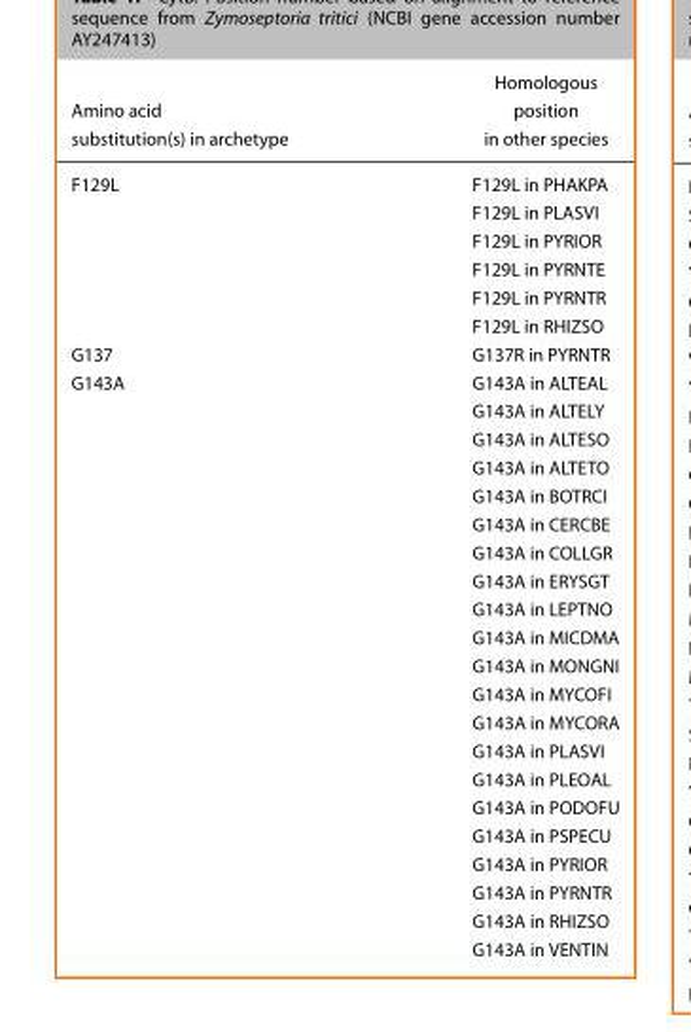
<table><thead><tr><td>Amino acid substitution(s) in archetype</td><td>Homologous position in other species</td></tr></thead><tbody><tr><td rowspan="6">F129L</td><td>F129L in PHAKPA</td></tr><tr><td>F129L in PLASVI</td></tr><tr><td>F129L in PYRIOR</td></tr><tr><td>F129L in PYRNTE</td></tr><tr><td>F129L in PYRNTR</td></tr><tr><td>F129L in RHIZSO</td></tr><tr><td>G137</td><td>G137R in PYRNTR</td></tr><tr><td rowspan="21">G143A</td><td>G143A in ALTEAL</td></tr><tr><td>G143A in ALTELY</td></tr><tr><td>G143A in ALTESO</td></tr><tr><td>G143A in ALTETO</td></tr><tr><td>G143A in BOTRCI</td></tr><tr><td>G143A in CERCBE</td></tr><tr><td>G143A in COLLGR</td></tr><tr><td>G143A in ERYSGT</td></tr><tr><td>G143A in LEPTNO</td></tr><tr><td>G143A in MICDMA</td></tr><tr><td>G143A in MONGNI</td></tr><tr><td>G143A in MYCOFI</td></tr><tr><td>G143A in MYCORA</td></tr><tr><td>G143A in PLASVI</td></tr><tr><td>G143A in PLEOAL</td></tr><tr><td>G143A in PODOFU</td></tr><tr><td>G143A in PSPECU</td></tr><tr><td>G143A in PYRIOR</td></tr><tr><td>G143A in PYRNTR</td></tr><tr><td>G143A in RHIZSO</td></tr><tr><td>G143A in VENTIN</td></tr></tbody></table>